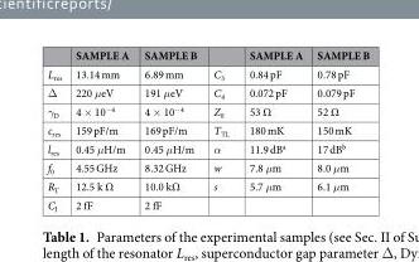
<table><thead><tr><td></td><td>SAMPLE A</td><td>SAMPLE B</td><td></td><td>SAMPLE A</td><td>SAMPLE B</td></tr></thead><tbody><tr><td>L<sub>res</sub></td><td>13.14 mm</td><td>6.89 mm</td><td>C<sub>3</sub></td><td>0.84 pF</td><td>0.78 pF</td></tr><tr><td>Δ</td><td>220 μeV</td><td>191 μeV</td><td>C<sub>4</sub></td><td>0.072 pF</td><td>0.079 pF</td></tr><tr><td>γ<sub>D</sub></td><td>4 × 10<sup>−4</sup></td><td>4 × 10<sup>−4</sup></td><td>Z<sub>0</sub></td><td>53 Ω</td><td>52 Ω</td></tr><tr><td>c<sub>res</sub></td><td>159 pF/m</td><td>169 pF/m</td><td>T<sub>TL</sub></td><td>180 mK</td><td>150 mK</td></tr><tr><td>l<sub>res</sub></td><td>0.45 μH/m</td><td>0.45 μH/m</td><td>α</td><td>11.9 dB<sup>a</sup></td><td>17 dB<sup>b</sup></td></tr><tr><td>f<sub>0</sub></td><td>4.55 GHz</td><td>8.32 GHz</td><td>w</td><td>7.8 μm</td><td>8.0 μm</td></tr><tr><td>R<sub>T</sub></td><td>12.5 k Ω</td><td>10.0 kΩ</td><td>s</td><td>5.7 μm</td><td>6.1 μm</td></tr><tr><td>C<sub>J</sub></td><td>2 fF</td><td>2 fF</td><td></td><td></td><td></td></tr></tbody></table>